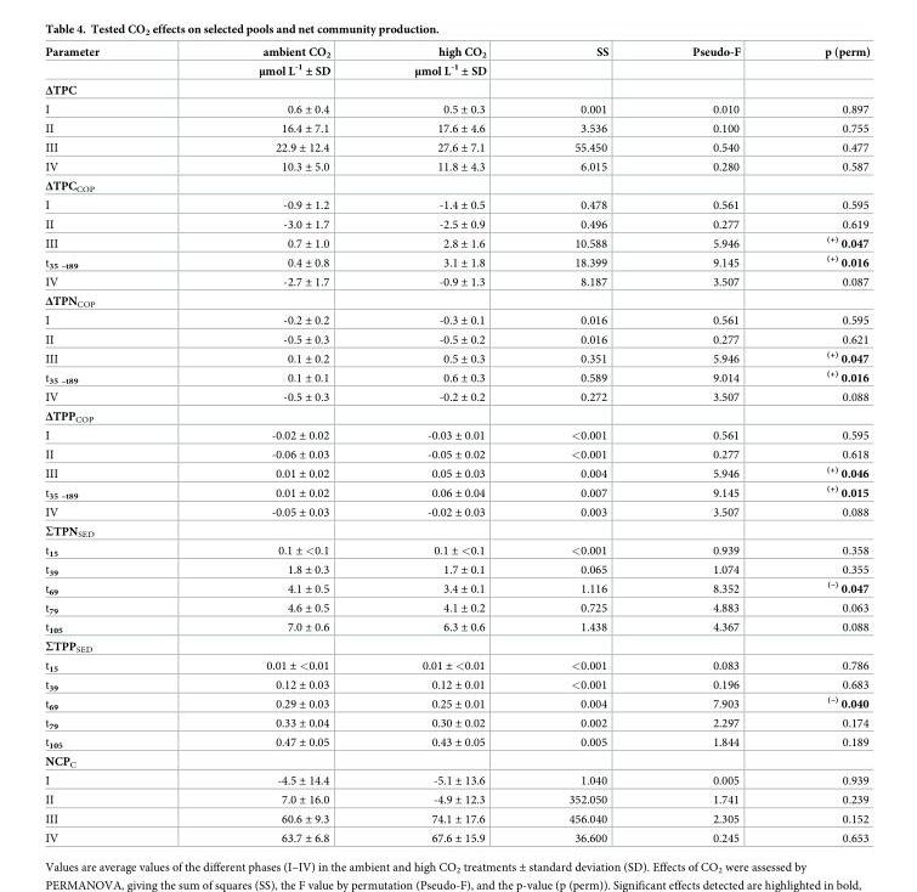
<table><thead><tr><td rowspan="2">Parameter</td><td rowspan="2">ambient CO<sub>2</sub> μmol L<sup>-1</sup> ± SD</td><td rowspan="2">high CO<sub>2</sub> μmol L<sup>-1</sup> ± SD</td><td rowspan="2">SS</td><td rowspan="2">Pseudo-F</td><td rowspan="2">p (perm)</td></tr><tr></tr></thead><tbody><tr><td colspan="6">ΔTPC</td></tr><tr><td>I</td><td>0.6 ± 0.4</td><td>0.5 ± 0.3</td><td>0.001</td><td>0.010</td><td>0.897</td></tr><tr><td>II</td><td>16.4 ± 7.1</td><td>17.6 ± 4.6</td><td>3.536</td><td>0.100</td><td>0.755</td></tr><tr><td>III</td><td>22.9 ± 12.4</td><td>27.6 ± 7.1</td><td>55.450</td><td>0.540</td><td>0.477</td></tr><tr><td>IV</td><td>10.3 ± 5.0</td><td>11.8 ± 4.3</td><td>6.015</td><td>0.280</td><td>0.587</td></tr><tr><td colspan="6">ΔTPC<sub>COP</sub></td></tr><tr><td>I</td><td>-0.9 ± 1.2</td><td>-1.4 ± 0.5</td><td>0.478</td><td>0.561</td><td>0.595</td></tr><tr><td>II</td><td>-3.0 ± 1.7</td><td>-2.5 ± 0.9</td><td>0.496</td><td>0.277</td><td>0.619</td></tr><tr><td>III</td><td>0.7 ± 1.0</td><td>2.8 ± 1.6</td><td>10.588</td><td>5.946</td><td><sup>(+)</sup> 0.047</td></tr><tr><td>t<sub>35 –t89</sub></td><td>0.4 ± 0.8</td><td>3.1 ± 1.8</td><td>18.399</td><td>9.145</td><td><sup>(+)</sup> 0.016</td></tr><tr><td>IV</td><td>-2.7 ± 1.7</td><td>-0.9 ± 1.3</td><td>8.187</td><td>3.507</td><td>0.087</td></tr><tr><td colspan="6">ΔTPN<sub>COP</sub></td></tr><tr><td>I</td><td>-0.2 ± 0.2</td><td>-0.3 ± 0.1</td><td>0.016</td><td>0.561</td><td>0.595</td></tr><tr><td>II</td><td>-0.5 ± 0.3</td><td>-0.5 ± 0.2</td><td>0.016</td><td>0.277</td><td>0.621</td></tr><tr><td>III</td><td>0.1 ± 0.2</td><td>0.5 ± 0.3</td><td>0.351</td><td>5.946</td><td><sup>(+)</sup> 0.047</td></tr><tr><td>t<sub>35 –t89</sub></td><td>0.1 ± 0.1</td><td>0.6 ± 0.3</td><td>0.589</td><td>9.014</td><td><sup>(+)</sup> 0.016</td></tr><tr><td>IV</td><td>-0.5 ± 0.3</td><td>-0.2 ± 0.2</td><td>0.272</td><td>3.507</td><td>0.088</td></tr><tr><td colspan="6">ΔTPP<sub>COP</sub></td></tr><tr><td>I</td><td>-0.02 ± 0.02</td><td>-0.03 ± 0.01</td><td>&lt;0.001</td><td>0.561</td><td>0.595</td></tr><tr><td>II</td><td>-0.06 ± 0.03</td><td>-0.05 ± 0.02</td><td>&lt;0.001</td><td>0.277</td><td>0.618</td></tr><tr><td>III</td><td>0.01 ± 0.02</td><td>0.05 ± 0.03</td><td>0.004</td><td>5.946</td><td><sup>(+)</sup> 0.046</td></tr><tr><td>t<sub>35 –t89</sub></td><td>0.01 ± 0.02</td><td>0.06 ± 0.04</td><td>0.007</td><td>9.145</td><td><sup>(+)</sup> 0.015</td></tr><tr><td>IV</td><td>-0.05 ± 0.03</td><td>-0.02 ± 0.03</td><td>0.003</td><td>3.507</td><td>0.088</td></tr><tr><td colspan="6">ΣTPN<sub>SED</sub></td></tr><tr><td>t<sub>15</sub></td><td>0.1 ± &lt;0.1</td><td>0.1 ± &lt;0.1</td><td>&lt;0.001</td><td>0.939</td><td>0.358</td></tr><tr><td>t<sub>39</sub></td><td>1.8 ± 0.3</td><td>1.7 ± 0.1</td><td>0.065</td><td>1.074</td><td>0.355</td></tr><tr><td>t<sub>69</sub></td><td>4.1 ± 0.5</td><td>3.4 ± 0.1</td><td>1.116</td><td>8.352</td><td><sup>(–)</sup> 0.047</td></tr><tr><td>t<sub>79</sub></td><td>4.6 ± 0.5</td><td>4.1 ± 0.2</td><td>0.725</td><td>4.883</td><td>0.063</td></tr><tr><td>t<sub>105</sub></td><td>7.0 ± 0.6</td><td>6.3 ± 0.6</td><td>1.438</td><td>4.367</td><td>0.088</td></tr><tr><td colspan="6">ΣTPP<sub>SED</sub></td></tr><tr><td>t<sub>15</sub></td><td>0.01 ± &lt;0.01</td><td>0.01 ± &lt;0.01</td><td>&lt;0.001</td><td>0.083</td><td>0.786</td></tr><tr><td>t<sub>39</sub></td><td>0.12 ± 0.03</td><td>0.12 ± 0.01</td><td>&lt;0.001</td><td>0.196</td><td>0.683</td></tr><tr><td>t<sub>69</sub></td><td>0.29 ± 0.03</td><td>0.25 ± 0.01</td><td>0.004</td><td>7.903</td><td><sup>(–)</sup> 0.040</td></tr><tr><td>t<sub>79</sub></td><td>0.33 ± 0.04</td><td>0.30 ± 0.02</td><td>0.002</td><td>2.297</td><td>0.174</td></tr><tr><td>t<sub>105</sub></td><td>0.47 ± 0.05</td><td>0.43 ± 0.05</td><td>0.005</td><td>1.844</td><td>0.189</td></tr><tr><td colspan="6">NCP<sub>C</sub></td></tr><tr><td>I</td><td>-4.5 ± 14.4</td><td>-5.1 ± 13.6</td><td>1.040</td><td>0.005</td><td>0.939</td></tr><tr><td>II</td><td>7.0 ± 16.0</td><td>-4.9 ± 12.3</td><td>352.050</td><td>1.741</td><td>0.239</td></tr><tr><td>III</td><td>60.6 ± 9.3</td><td>74.1 ± 17.6</td><td>456.040</td><td>2.305</td><td>0.152</td></tr><tr><td>IV</td><td>63.7 ± 6.8</td><td>67.6 ± 15.9</td><td>36.600</td><td>0.245</td><td>0.653</td></tr></tbody></table>